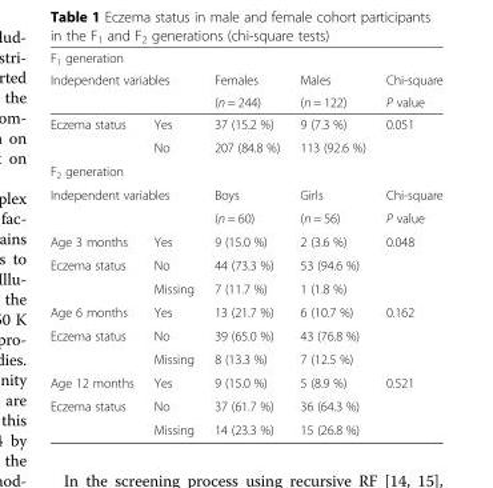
<table><thead><tr><td>F<sub>1</sub> generation</td><td></td><td rowspan="3">Females (n = 244)</td><td rowspan="3">Males (n = 122)</td><td rowspan="3">Chi-square P value</td></tr><tr><td rowspan="2" colspan="2">Independent variables</td></tr><tr></tr></thead><tbody><tr><td rowspan="2">Eczema status</td><td>Yes</td><td>37 (15.2 %)</td><td>9 (7.3 %)</td><td rowspan="2">0.051</td></tr><tr><td>No</td><td>207 (84.8 %)</td><td>113 (92.6 %)</td></tr><tr><td colspan="5">F<sub>2</sub> generation</td></tr><tr><td colspan="2">Independent variables</td><td>Boys</td><td>Girls</td><td>Chi-square</td></tr><tr><td></td><td></td><td>(n = 60)</td><td>(n = 56)</td><td>P value</td></tr><tr><td>Age 3 months</td><td>Yes</td><td>9 (15.0 %)</td><td>2 (3.6 %)</td><td>0.048</td></tr><tr><td rowspan="2">Eczema status</td><td>No</td><td>44 (73.3 %)</td><td>53 (94.6 %)</td><td></td></tr><tr><td>Missing</td><td>7 (11.7 %)</td><td>1 (1.8 %)</td><td></td></tr><tr><td>Age 6 months</td><td>Yes</td><td>13 (21.7 %)</td><td>6 (10.7 %)</td><td>0.162</td></tr><tr><td rowspan="2">Eczema status</td><td>No</td><td>39 (65.0 %)</td><td>43 (76.8 %)</td><td></td></tr><tr><td>Missing</td><td>8 (13.3 %)</td><td>7 (12.5 %)</td><td></td></tr><tr><td>Age 12 months</td><td>Yes</td><td>9 (15.0 %)</td><td>5 (8.9 %)</td><td>0.521</td></tr><tr><td rowspan="2">Eczema status</td><td>No</td><td>37 (61.7 %)</td><td>36 (64.3 %)</td><td></td></tr><tr><td>Missing</td><td>14 (23.3 %)</td><td>15 (26.8 %)</td><td></td></tr></tbody></table>